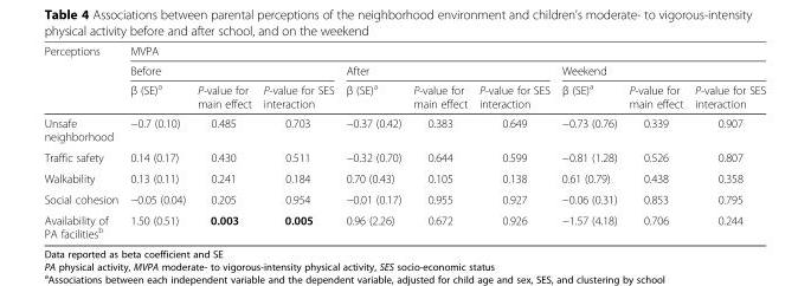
<table><thead><tr><td rowspan="3">Perceptions</td><td colspan="9">MVPA</td></tr><tr><td colspan="3">Before</td><td colspan="3">After</td><td colspan="3">Weekend</td></tr><tr><td>β (SE)<sup>a</sup></td><td>P-value for main effect</td><td>P-value for SES interaction</td><td>β (SE)<sup>a</sup></td><td>P-value for main effect</td><td>P-value for SES interaction</td><td>β (SE)<sup>a</sup></td><td>P-value for main effect</td><td>P-value for SES interaction</td></tr></thead><tbody><tr><td>Unsafe neighborhood</td><td>−0.7 (0.10)</td><td>0.485</td><td>0.703</td><td>−0.37 (0.42)</td><td>0.383</td><td>0.649</td><td>−0.73 (0.76)</td><td>0.339</td><td>0.907</td></tr><tr><td>Traffic safety</td><td>0.14 (0.17)</td><td>0.430</td><td>0.511</td><td>−0.32 (0.70)</td><td>0.644</td><td>0.599</td><td>−0.81 (1.28)</td><td>0.526</td><td>0.807</td></tr><tr><td>Walkability</td><td>0.13 (0.11)</td><td>0.241</td><td>0.184</td><td>0.70 (0.43)</td><td>0.105</td><td>0.138</td><td>0.61 (0.79)</td><td>0.438</td><td>0.358</td></tr><tr><td>Social cohesion</td><td>−0.05 (0.04)</td><td>0.205</td><td>0.954</td><td>−0.01 (0.17)</td><td>0.955</td><td>0.927</td><td>−0.06 (0.31)</td><td>0.853</td><td>0.795</td></tr><tr><td>Availability of PA facilities<sup>b</sup></td><td>1.50 (0.51)</td><td>0.003</td><td>0.005</td><td>0.96 (2.26)</td><td>0.672</td><td>0.926</td><td>−1.57 (4.18)</td><td>0.706</td><td>0.244</td></tr></tbody></table>